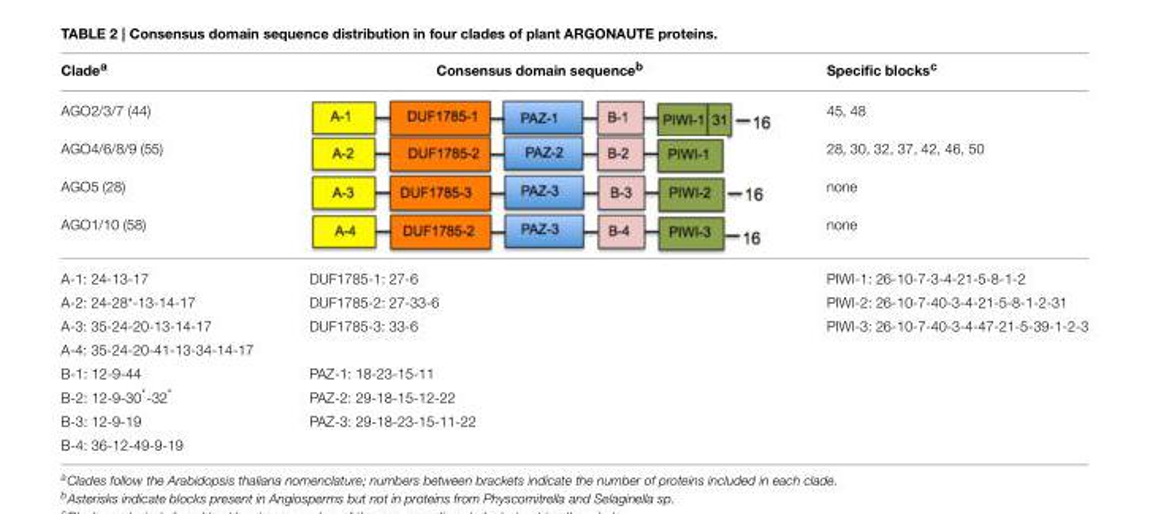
<table><thead><tr><td>Clade<sup>a</sup></td><td>Consensus domain sequence<sup>b</sup></td><td>Specific blocks<sup>c</sup></td></tr></thead><tbody><tr><td>AGO2/3/7 (44)</td><td rowspan="4"></td><td>45, 48</td></tr><tr><td>AGO4/6/8/9 (55)</td><td>28, 30, 32, 37, 42, 46, 50</td></tr><tr><td>AGO5 (28)</td><td>none</td></tr><tr><td>AGO1/10 (58)</td><td>none</td></tr><tr><td>A-1: 24-13-17</td><td>DUF1785-1: 27-6</td><td>PIWI-1: 26-10-7-3-4-21-5-8-1-2</td></tr><tr><td>A-2: 24-28*-13-14-17</td><td>DUF1785-2: 27-33-6</td><td>PIWI-2: 26-10-7-40-3-4-21-5-8-1-2-31</td></tr><tr><td>A-3: 35-24-20-13-14-17</td><td>DUF1785-3: 33-6</td><td>PIWI-3: 26-10-7-40-3-4-47-21-5-39-1-2-3</td></tr><tr><td colspan="3">A-4: 35-24-20-41-13-34-14-17</td></tr><tr><td>B-1: 12-9-44</td><td>PAZ-1: 18-23-15-11</td><td></td></tr><tr><td>B-2: 12-9-30*-32*</td><td>PAZ-2: 29-18-15-12-22</td><td></td></tr><tr><td>B-3: 12-9-19</td><td>PAZ-3: 29-18-23-15-11-22</td><td></td></tr><tr><td>B-4: 36-12-49-9-19</td><td></td><td></td></tr></tbody></table>